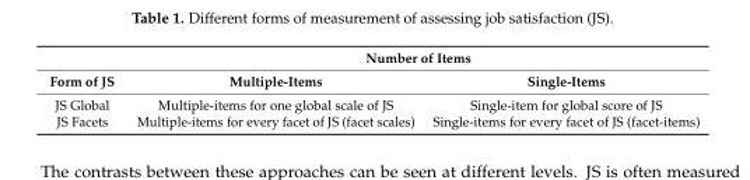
<table><thead><tr><td rowspan="2">Form of JS</td><td colspan="2">Number of Items</td></tr><tr><td>Multiple-Items</td><td>Single-Items</td></tr></thead><tbody><tr><td>JS Global</td><td>Multiple-items for one global scale of JS</td><td>Single-item for global score of JS</td></tr><tr><td>JS Facets</td><td>Multiple-items for every facet of JS (facet scales)</td><td>Single-items for every facet of JS (facet-items)</td></tr></tbody></table>